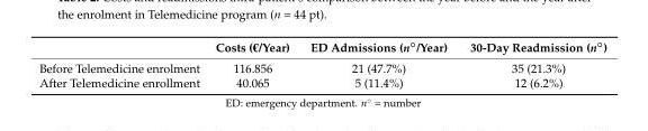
<table><thead><tr><td></td><td>Costs (€/Year)</td><td>ED Admissions (n◦/Year)</td><td>30-Day Readmission (n◦)</td></tr></thead><tbody><tr><td>Before Telemedicine enrolment</td><td>116.856</td><td>21 (47.7%)</td><td>35 (21.3%)</td></tr><tr><td>After Telemedicine enrollment</td><td>40.065</td><td>5 (11.4%)</td><td>12 (6.2%)</td></tr></tbody></table>